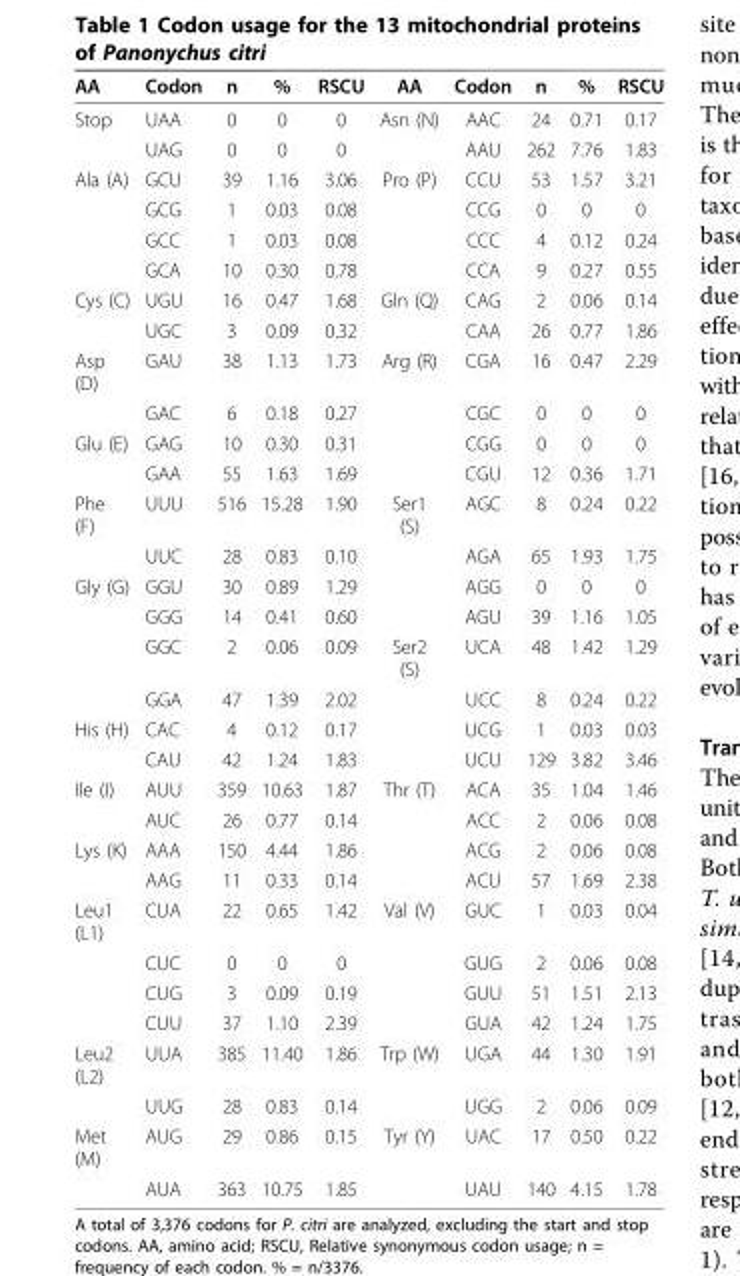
<table><thead><tr><td>AA</td><td>Codon</td><td>n</td><td>%</td><td>RSCU</td><td>AA</td><td>Codon</td><td>n</td><td>%</td><td>RSCU</td></tr></thead><tbody><tr><td rowspan="2">Stop</td><td>UAA</td><td>0</td><td>0</td><td>0</td><td>Asn (N)</td><td>AAC</td><td>24</td><td>0.71</td><td>0.17</td></tr><tr><td>UAG</td><td>0</td><td>0</td><td>0</td><td></td><td>AAU</td><td>262</td><td>7.76</td><td>1.83</td></tr><tr><td rowspan="4">Ala (A)</td><td>GCU</td><td>39</td><td>1.16</td><td>3.06</td><td>Pro (P)</td><td>CCU</td><td>53</td><td>1.57</td><td>3.21</td></tr><tr><td>GCG</td><td>1</td><td>0.03</td><td>0.08</td><td></td><td>CCG</td><td>0</td><td>0</td><td>0</td></tr><tr><td>GCC</td><td>1</td><td>0.03</td><td>0.08</td><td></td><td>CCC</td><td>4</td><td>0.12</td><td>0.24</td></tr><tr><td>GCA</td><td>10</td><td>0.30</td><td>0.78</td><td></td><td>CCA</td><td>9</td><td>0.27</td><td>0.55</td></tr><tr><td rowspan="2">Cys (C)</td><td>UGU</td><td>16</td><td>0.47</td><td>1.68</td><td>Gln (Q)</td><td>CAG</td><td>2</td><td>0.06</td><td>0.14</td></tr><tr><td>UGC</td><td>3</td><td>0.09</td><td>0.32</td><td></td><td>CAA</td><td>26</td><td>0.77</td><td>1.86</td></tr><tr><td rowspan="2">Asp (D)</td><td>GAU</td><td>38</td><td>1.13</td><td>1.73</td><td>Arg (R)</td><td>CGA</td><td>16</td><td>0.47</td><td>2.29</td></tr><tr><td>GAC</td><td>6</td><td>0.18</td><td>0.27</td><td></td><td>CGC</td><td>0</td><td>0</td><td>0</td></tr><tr><td rowspan="2">Glu (E)</td><td>GAG</td><td>10</td><td>0.30</td><td>0.31</td><td></td><td>CGG</td><td>0</td><td>0</td><td>0</td></tr><tr><td>GAA</td><td>55</td><td>1.63</td><td>1.69</td><td></td><td>CGU</td><td>12</td><td>0.36</td><td>1.71</td></tr><tr><td rowspan="2">Phe (F)</td><td>UUU</td><td>516</td><td>15.28</td><td>1.90</td><td>Ser1 (S)</td><td>AGC</td><td>8</td><td>0.24</td><td>0.22</td></tr><tr><td>UUC</td><td>28</td><td>0.83</td><td>0.10</td><td></td><td>AGA</td><td>65</td><td>1.93</td><td>1.75</td></tr><tr><td rowspan="4">Gly (G)</td><td>GGU</td><td>30</td><td>0.89</td><td>1.29</td><td></td><td>AGG</td><td>0</td><td>0</td><td>0</td></tr><tr><td>GGG</td><td>14</td><td>0.41</td><td>0.60</td><td></td><td>AGU</td><td>39</td><td>1.16</td><td>1.05</td></tr><tr><td>GGC</td><td>2</td><td>0.06</td><td>0.09</td><td>Ser2 (S)</td><td>UCA</td><td>48</td><td>1.42</td><td>1.29</td></tr><tr><td>GGA</td><td>47</td><td>1.39</td><td>2.02</td><td></td><td>UCC</td><td>8</td><td>0.24</td><td>0.22</td></tr><tr><td rowspan="2">His (H)</td><td>CAC</td><td>4</td><td>0.12</td><td>0.17</td><td></td><td>UCG</td><td>1</td><td>0.03</td><td>0.03</td></tr><tr><td>CAU</td><td>42</td><td>1.24</td><td>1.83</td><td></td><td>UCU</td><td>129</td><td>3.82</td><td>3.46</td></tr><tr><td rowspan="2">Ile (I)</td><td>AUU</td><td>359</td><td>10.63</td><td>1.87</td><td>Thr (T)</td><td>ACA</td><td>35</td><td>1.04</td><td>1.46</td></tr><tr><td>AUC</td><td>26</td><td>0.77</td><td>0.14</td><td></td><td>ACC</td><td>2</td><td>0.06</td><td>0.08</td></tr><tr><td rowspan="2">Lys (K)</td><td>AAA</td><td>150</td><td>4.44</td><td>1.86</td><td></td><td>ACG</td><td>2</td><td>0.06</td><td>0.08</td></tr><tr><td>AAG</td><td>11</td><td>0.33</td><td>0.14</td><td></td><td>ACU</td><td>57</td><td>1.69</td><td>2.38</td></tr><tr><td rowspan="4">Leu1 (L1)</td><td>CUA</td><td>22</td><td>0.65</td><td>1.42</td><td>Val (V)</td><td>GUC</td><td>1</td><td>0.03</td><td>0.04</td></tr><tr><td>CUC</td><td>0</td><td>0</td><td>0</td><td></td><td>GUG</td><td>2</td><td>0.06</td><td>0.08</td></tr><tr><td>CUG</td><td>3</td><td>0.09</td><td>0.19</td><td></td><td>GUU</td><td>51</td><td>1.51</td><td>2.13</td></tr><tr><td>CUU</td><td>37</td><td>1.10</td><td>2.39</td><td></td><td>GUA</td><td>42</td><td>1.24</td><td>1.75</td></tr><tr><td rowspan="2">Leu2 (L2)</td><td>UUA</td><td>385</td><td>11.40</td><td>1.86</td><td>Trp (W)</td><td>UGA</td><td>44</td><td>1.30</td><td>1.91</td></tr><tr><td>UUG</td><td>28</td><td>0.83</td><td>0.14</td><td></td><td>UGG</td><td>2</td><td>0.06</td><td>0.09</td></tr><tr><td rowspan="2">Met (M)</td><td>AUG</td><td>29</td><td>0.86</td><td>0.15</td><td>Tyr (Y)</td><td>UAC</td><td>17</td><td>0.50</td><td>0.22</td></tr><tr><td>AUA</td><td>363</td><td>10.75</td><td>1.85</td><td></td><td>UAU</td><td>140</td><td>4.15</td><td>1.78</td></tr></tbody></table>